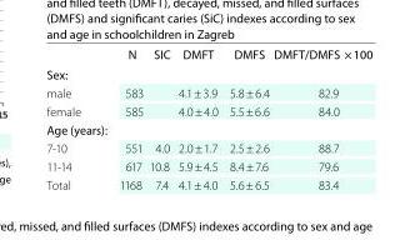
<table><thead><tr><td></td><td>N</td><td>sIC</td><td>DMFt</td><td>DMFs</td><td>DMFt/DMFs × 100</td></tr></thead><tbody><tr><td colspan="6">sex:</td></tr><tr><td>male</td><td>583</td><td></td><td>4.1 ± 3.9</td><td>5.8 ± 6.4</td><td>82.9</td></tr><tr><td>female</td><td>585</td><td></td><td>4.0 ± 4.0</td><td>5.5 ± 6.6</td><td>84.0</td></tr><tr><td colspan="6">age (years):</td></tr><tr><td>7-10</td><td>551</td><td>4.0</td><td>2.0 ± 1.7</td><td>2.5 ± 2.6</td><td>88.7</td></tr><tr><td>11-14</td><td>617</td><td>10.8</td><td>5.9 ± 4.5</td><td>8.4 ± 7.6</td><td>79.6</td></tr><tr><td>Total</td><td>1168</td><td>7.4</td><td>4.1 ± 4.0</td><td>5.6 ± 6.5</td><td>83.4</td></tr></tbody></table>